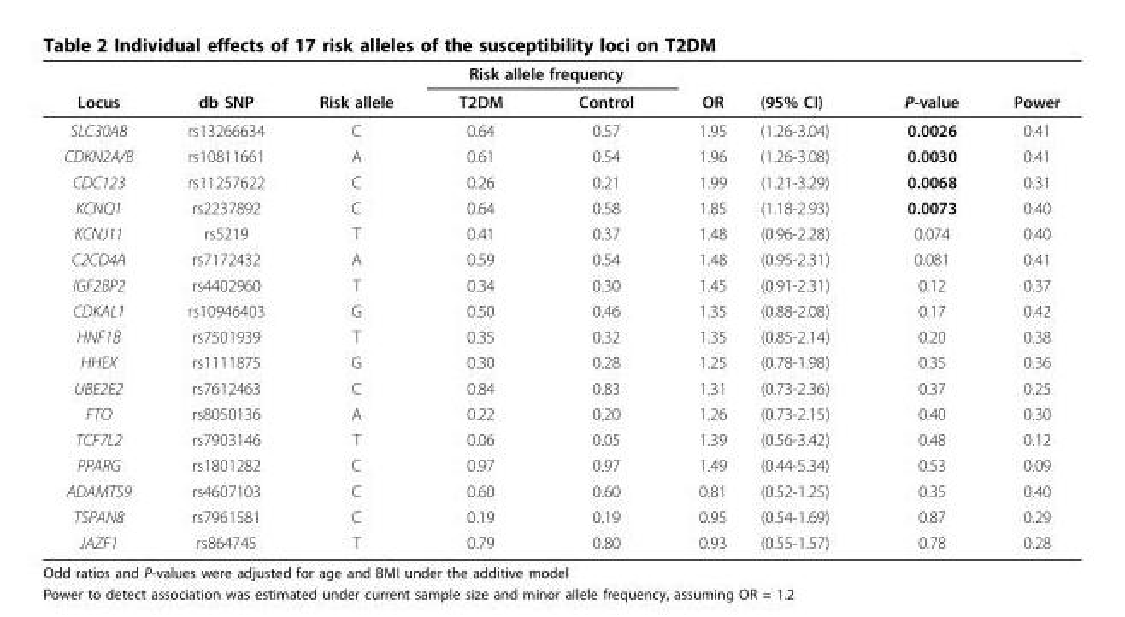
<table><thead><tr><td rowspan="2">Locus</td><td rowspan="2">db SNP</td><td rowspan="2">Risk allele</td><td colspan="2">Risk allele frequency</td><td rowspan="2">OR</td><td rowspan="2">(95% CI)</td><td rowspan="2">P-value</td><td rowspan="2">Power</td></tr><tr><td>T2DM</td><td>Control</td></tr></thead><tbody><tr><td>SLC30A8</td><td>rs13266634</td><td>C</td><td>0.64</td><td>0.57</td><td>1.95</td><td>(1.26-3.04)</td><td>0.0026</td><td>0.41</td></tr><tr><td>CDKN2A/B</td><td>rs10811661</td><td>A</td><td>0.61</td><td>0.54</td><td>1.96</td><td>(1.26-3.08)</td><td>0.0030</td><td>0.41</td></tr><tr><td>CDC123</td><td>rs11257622</td><td>C</td><td>0.26</td><td>0.21</td><td>1.99</td><td>(1.21-3.29)</td><td>0.0068</td><td>0.31</td></tr><tr><td>KCNQ1</td><td>rs2237892</td><td>C</td><td>0.64</td><td>0.58</td><td>1.85</td><td>(1.18-2.93)</td><td>0.0073</td><td>0.40</td></tr><tr><td>KCNJ11</td><td>rs5219</td><td>T</td><td>0.41</td><td>0.37</td><td>1.48</td><td>(0.96-2.28)</td><td>0.074</td><td>0.40</td></tr><tr><td>C2CD4A</td><td>rs7172432</td><td>A</td><td>0.59</td><td>0.54</td><td>1.48</td><td>(0.95-2.31)</td><td>0.081</td><td>0.41</td></tr><tr><td>IGF2BP2</td><td>rs4402960</td><td>T</td><td>0.34</td><td>0.30</td><td>1.45</td><td>(0.91-2.31)</td><td>0.12</td><td>0.37</td></tr><tr><td>CDKAL1</td><td>rs10946403</td><td>G</td><td>0.50</td><td>0.46</td><td>1.35</td><td>(0.88-2.08)</td><td>0.17</td><td>0.42</td></tr><tr><td>HNF1B</td><td>rs7501939</td><td>T</td><td>0.35</td><td>0.32</td><td>1.35</td><td>(0.85-2.14)</td><td>0.20</td><td>0.38</td></tr><tr><td>HHEX</td><td>rs1111875</td><td>G</td><td>0.30</td><td>0.28</td><td>1.25</td><td>(0.78-1.98)</td><td>0.35</td><td>0.36</td></tr><tr><td>UBE2E2</td><td>rs7612463</td><td>C</td><td>0.84</td><td>0.83</td><td>1.31</td><td>(0.73-2.36)</td><td>0.37</td><td>0.25</td></tr><tr><td>FTO</td><td>rs8050136</td><td>A</td><td>0.22</td><td>0.20</td><td>1.26</td><td>(0.73-2.15)</td><td>0.40</td><td>0.30</td></tr><tr><td>TCF7L2</td><td>rs7903146</td><td>T</td><td>0.06</td><td>0.05</td><td>1.39</td><td>(0.56-3.42)</td><td>0.48</td><td>0.12</td></tr><tr><td>PPARG</td><td>rs1801282</td><td>C</td><td>0.97</td><td>0.97</td><td>1.49</td><td>(0.44-5.34)</td><td>0.53</td><td>0.09</td></tr><tr><td>ADAMTS9</td><td>rs4607103</td><td>C</td><td>0.60</td><td>0.60</td><td>0.81</td><td>(0.52-1.25)</td><td>0.35</td><td>0.40</td></tr><tr><td>TSPAN8</td><td>rs7961581</td><td>C</td><td>0.19</td><td>0.19</td><td>0.95</td><td>(0.54-1.69)</td><td>0.87</td><td>0.29</td></tr><tr><td>JAZF1</td><td>rs864745</td><td>T</td><td>0.79</td><td>0.80</td><td>0.93</td><td>(0.55-1.57)</td><td>0.78</td><td>0.28</td></tr></tbody></table>